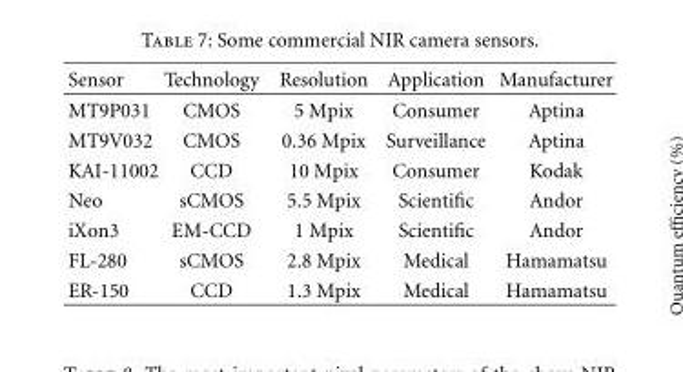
<table><thead><tr><td>Sensor</td><td>Technology</td><td>Resolution</td><td>Application</td><td>Manufacturer</td></tr></thead><tbody><tr><td>MT9P031</td><td>CMOS</td><td>5 Mpix</td><td>Consumer</td><td>Aptina</td></tr><tr><td>MT9V032</td><td>CMOS</td><td>0.36 Mpix</td><td>Surveillance</td><td>Aptina</td></tr><tr><td>KAI-11002</td><td>CCD</td><td>10 Mpix</td><td>Consumer</td><td>Kodak</td></tr><tr><td>Neo</td><td>sCMOS</td><td>5.5 Mpix</td><td>Scientific</td><td>Andor</td></tr><tr><td>iXon3</td><td>EM-CCD</td><td>1 Mpix</td><td>Scientific</td><td>Andor</td></tr><tr><td>FL-280</td><td>sCMOS</td><td>2.8 Mpix</td><td>Medical</td><td>Hamamatsu</td></tr><tr><td>ER-150</td><td>CCD</td><td>1.3 Mpix</td><td>Medical</td><td>Hamamatsu</td></tr></tbody></table>